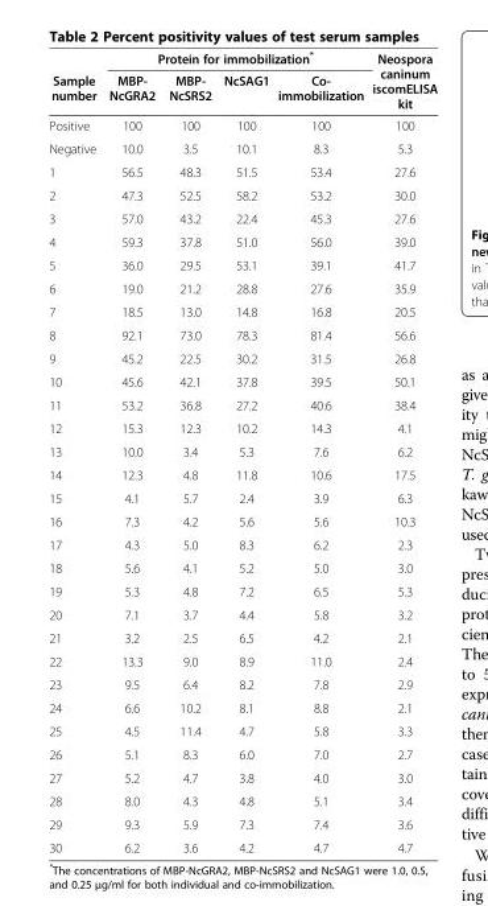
<table><thead><tr><td rowspan="2">Sample number</td><td colspan="4">Protein for immobilization*</td><td rowspan="2">Neospora caninum iscomELISA kit</td></tr><tr><td>MBP- NcGRA2</td><td>MBP- NcSRS2</td><td>NcSAG1</td><td>Co- immobilization</td></tr></thead><tbody><tr><td>Positive</td><td>100</td><td>100</td><td>100</td><td>100</td><td>100</td></tr><tr><td>Negative</td><td>10.0</td><td>3.5</td><td>10.1</td><td>8.3</td><td>5.3</td></tr><tr><td>1</td><td>56.5</td><td>48.3</td><td>51.5</td><td>53.4</td><td>27.6</td></tr><tr><td>2</td><td>47.3</td><td>52.5</td><td>58.2</td><td>53.2</td><td>30.0</td></tr><tr><td>3</td><td>57.0</td><td>43.2</td><td>22.4</td><td>45.3</td><td>27.6</td></tr><tr><td>4</td><td>59.3</td><td>37.8</td><td>51.0</td><td>56.0</td><td>39.0</td></tr><tr><td>5</td><td>36.0</td><td>29.5</td><td>53.1</td><td>39.1</td><td>41.7</td></tr><tr><td>6</td><td>19.0</td><td>21.2</td><td>28.8</td><td>27.6</td><td>35.9</td></tr><tr><td>7</td><td>18.5</td><td>13.0</td><td>14.8</td><td>16.8</td><td>20.5</td></tr><tr><td>8</td><td>92.1</td><td>73.0</td><td>78.3</td><td>81.4</td><td>56.6</td></tr><tr><td>9</td><td>45.2</td><td>22.5</td><td>30.2</td><td>31.5</td><td>26.8</td></tr><tr><td>10</td><td>45.6</td><td>42.1</td><td>37.8</td><td>39.5</td><td>50.1</td></tr><tr><td>11</td><td>53.2</td><td>36.8</td><td>27.2</td><td>40.6</td><td>38.4</td></tr><tr><td>12</td><td>15.3</td><td>12.3</td><td>10.2</td><td>14.3</td><td>4.1</td></tr><tr><td>13</td><td>10.0</td><td>3.4</td><td>5.3</td><td>7.6</td><td>6.2</td></tr><tr><td>14</td><td>12.3</td><td>4.8</td><td>11.8</td><td>10.6</td><td>17.5</td></tr><tr><td>15</td><td>4.1</td><td>5.7</td><td>2.4</td><td>3.9</td><td>6.3</td></tr><tr><td>16</td><td>7.3</td><td>4.2</td><td>5.6</td><td>5.6</td><td>10.3</td></tr><tr><td>17</td><td>4.3</td><td>5.0</td><td>8.3</td><td>6.2</td><td>2.3</td></tr><tr><td>18</td><td>5.6</td><td>4.1</td><td>5.2</td><td>5.0</td><td>3.0</td></tr><tr><td>19</td><td>5.3</td><td>4.8</td><td>7.2</td><td>6.5</td><td>5.3</td></tr><tr><td>20</td><td>7.1</td><td>3.7</td><td>4.4</td><td>5.8</td><td>3.2</td></tr><tr><td>21</td><td>3.2</td><td>2.5</td><td>6.5</td><td>4.2</td><td>2.1</td></tr><tr><td>22</td><td>13.3</td><td>9.0</td><td>8.9</td><td>11.0</td><td>2.4</td></tr><tr><td>23</td><td>9.5</td><td>6.4</td><td>8.2</td><td>7.8</td><td>2.9</td></tr><tr><td>24</td><td>6.6</td><td>10.2</td><td>8.1</td><td>8.8</td><td>2.1</td></tr><tr><td>25</td><td>4.5</td><td>11.4</td><td>4.7</td><td>5.8</td><td>3.3</td></tr><tr><td>26</td><td>5.1</td><td>8.3</td><td>6.0</td><td>7.0</td><td>2.7</td></tr><tr><td>27</td><td>5.2</td><td>4.7</td><td>3.8</td><td>4.0</td><td>3.0</td></tr><tr><td>28</td><td>8.0</td><td>4.3</td><td>4.8</td><td>5.1</td><td>3.4</td></tr><tr><td>29</td><td>9.3</td><td>5.9</td><td>7.3</td><td>7.4</td><td>3.6</td></tr><tr><td>30</td><td>6.2</td><td>3.6</td><td>4.2</td><td>4.7</td><td>4.7</td></tr></tbody></table>